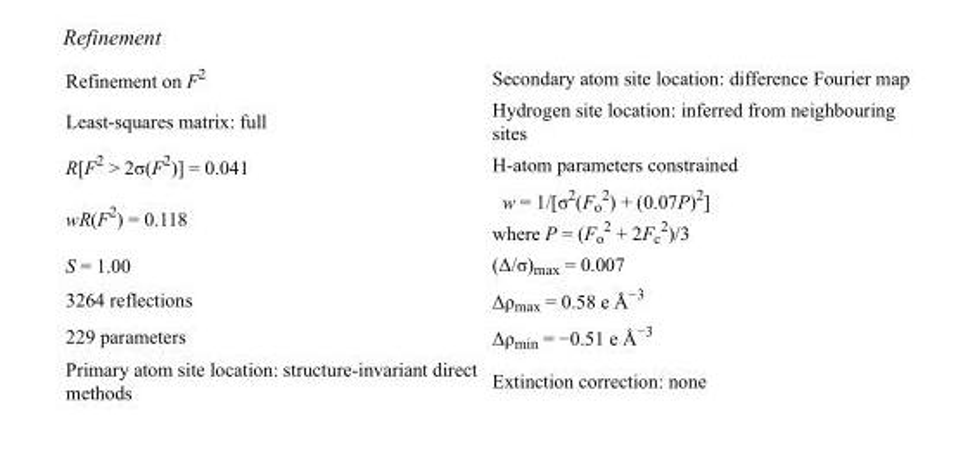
<table><tbody><tr><td>Refinement on F2</td><td>Secondary atom site location: difference Fourier map</td></tr><tr><td>Least-squares matrix: full</td><td>Hydrogen site location: inferred from neighbouring sites</td></tr><tr><td>R[F2 &gt; 2σ(F2)] = 0.041</td><td>H-atom parameters constrained</td></tr><tr><td>wR(F2) = 0.118</td><td>w = 1/[σ2(Fo 2) + (0.07P)2] where P = (Fo 2 + 2Fc 2)/3</td></tr><tr><td>S = 1.00</td><td>(Δ/σ)max = 0.007</td></tr><tr><td>3264 reflections</td><td>Δρmax = 0.58 e Å−3</td></tr><tr><td>229 parameters</td><td>Δρmin = −0.51 e Å−3</td></tr><tr><td>Primary atom site location: structure-invariant direct methods</td><td>Extinction correction: none</td></tr></tbody></table>